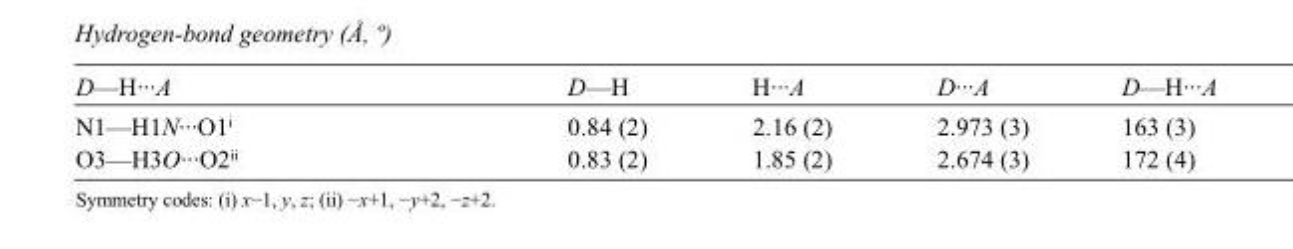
<table><tbody><tr><td>D—H···A</td><td>D—H</td><td>H···A</td><td>D···A</td><td>D—H···A</td></tr><tr><td>N1—H1N···O1<sup>i</sup></td><td>0.84 (2)</td><td>2.16 (2)</td><td>2.973 (3)</td><td>163 (3)</td></tr><tr><td>O3—H3O···O2<sup>ii</sup></td><td>0.83 (2)</td><td>1.85 (2)</td><td>2.674 (3)</td><td>172 (4)</td></tr></tbody></table>